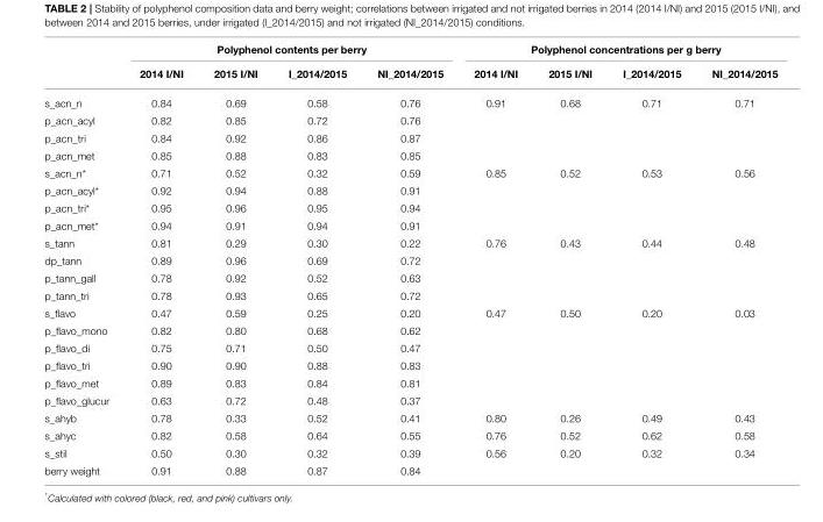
<table><thead><tr><td rowspan="2"></td><td colspan="4">Polyphenol contents per berry</td><td colspan="4">Polyphenol concentrations per g berry</td></tr><tr><td>2014 I/NI</td><td>2015 I/NI</td><td>I_2014/2015</td><td>NI_2014/2015</td><td>2014 I/NI</td><td>2015 I/NI</td><td>I_2014/2015</td><td>NI_2014/2015</td></tr></thead><tbody><tr><td>s_acn_n</td><td>0.84</td><td>0.69</td><td>0.58</td><td>0.76</td><td>0.91</td><td>0.68</td><td>0.71</td><td>0.71</td></tr><tr><td>p_acn_acyl</td><td>0.82</td><td>0.85</td><td>0.72</td><td>0.76</td><td></td><td></td><td></td><td></td></tr><tr><td>p_acn_tri</td><td>0.84</td><td>0.92</td><td>0.86</td><td>0.87</td><td></td><td></td><td></td><td></td></tr><tr><td>p_acn_met</td><td>0.85</td><td>0.88</td><td>0.83</td><td>0.85</td><td></td><td></td><td></td><td></td></tr><tr><td>s_acn_n*</td><td>0.71</td><td>0.52</td><td>0.32</td><td>0.59</td><td>0.85</td><td>0.52</td><td>0.53</td><td>0.56</td></tr><tr><td>p_acn_acyl*</td><td>0.92</td><td>0.94</td><td>0.88</td><td>0.91</td><td></td><td></td><td></td><td></td></tr><tr><td>p_acn_tri*</td><td>0.95</td><td>0.96</td><td>0.95</td><td>0.94</td><td></td><td></td><td></td><td></td></tr><tr><td>p_acn_met*</td><td>0.94</td><td>0.91</td><td>0.94</td><td>0.91</td><td></td><td></td><td></td><td></td></tr><tr><td>s_tann</td><td>0.81</td><td>0.29</td><td>0.30</td><td>0.22</td><td>0.76</td><td>0.43</td><td>0.44</td><td>0.48</td></tr><tr><td>dp_tann</td><td>0.89</td><td>0.96</td><td>0.69</td><td>0.72</td><td></td><td></td><td></td><td></td></tr><tr><td>p_tann_gall</td><td>0.78</td><td>0.92</td><td>0.52</td><td>0.63</td><td></td><td></td><td></td><td></td></tr><tr><td>p_tann_tri</td><td>0.78</td><td>0.93</td><td>0.65</td><td>0.72</td><td></td><td></td><td></td><td></td></tr><tr><td>s_flavo</td><td>0.47</td><td>0.59</td><td>0.25</td><td>0.20</td><td>0.47</td><td>0.50</td><td>0.20</td><td>0.03</td></tr><tr><td>p_flavo_mono</td><td>0.82</td><td>0.80</td><td>0.68</td><td>0.62</td><td></td><td></td><td></td><td></td></tr><tr><td>p_flavo_di</td><td>0.75</td><td>0.71</td><td>0.50</td><td>0.47</td><td></td><td></td><td></td><td></td></tr><tr><td>p_flavo_tri</td><td>0.90</td><td>0.90</td><td>0.88</td><td>0.83</td><td></td><td></td><td></td><td></td></tr><tr><td>p_flavo_met</td><td>0.89</td><td>0.83</td><td>0.84</td><td>0.81</td><td></td><td></td><td></td><td></td></tr><tr><td>p_flavo_glucur</td><td>0.63</td><td>0.72</td><td>0.48</td><td>0.37</td><td></td><td></td><td></td><td></td></tr><tr><td>s_ahyb</td><td>0.78</td><td>0.33</td><td>0.52</td><td>0.41</td><td>0.80</td><td>0.26</td><td>0.49</td><td>0.43</td></tr><tr><td>s_ahyc</td><td>0.82</td><td>0.58</td><td>0.64</td><td>0.55</td><td>0.76</td><td>0.52</td><td>0.62</td><td>0.58</td></tr><tr><td>s_stil</td><td>0.50</td><td>0.30</td><td>0.32</td><td>0.39</td><td>0.56</td><td>0.20</td><td>0.32</td><td>0.34</td></tr><tr><td>berry weight</td><td>0.91</td><td>0.88</td><td>0.87</td><td>0.84</td><td></td><td></td><td></td><td></td></tr></tbody></table>